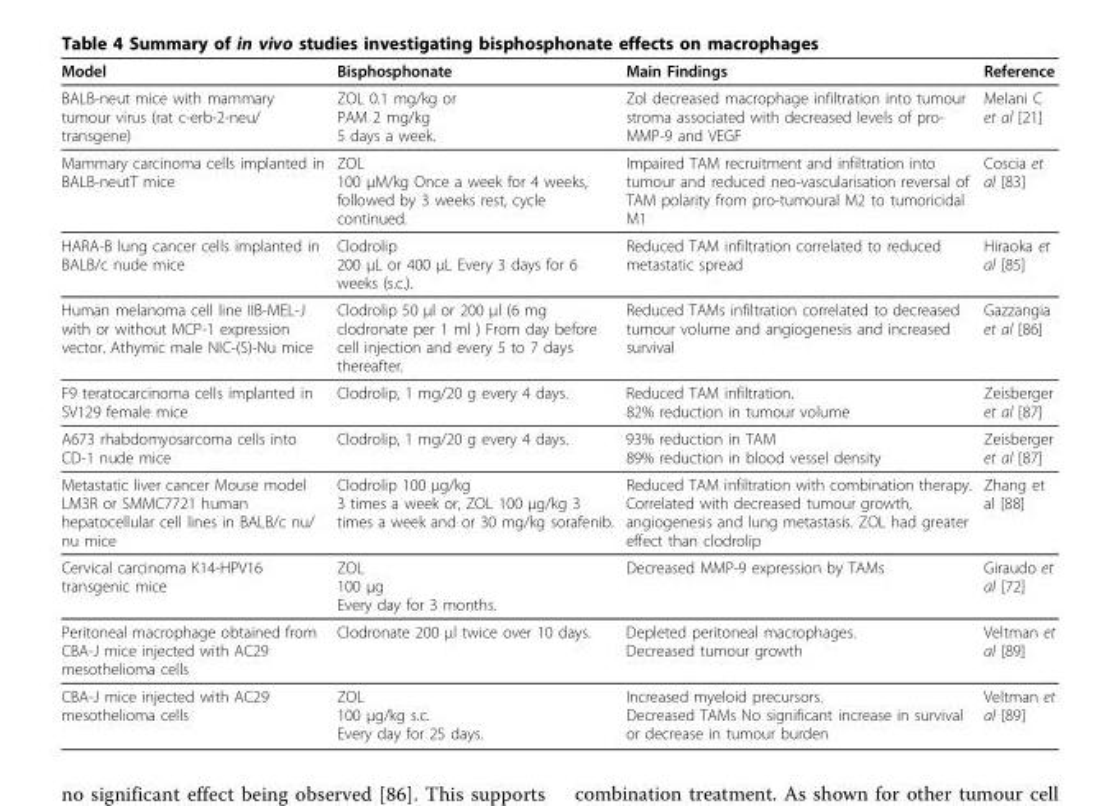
<table><thead><tr><td>Model</td><td>Bisphosphonate</td><td>Main Findings</td><td>Reference</td></tr></thead><tbody><tr><td>BALB-neut mice with mammary tumour virus (rat c-erb-2-neu/ transgene)</td><td>ZOL 0.1 mg/kg or PAM 2 mg/kg 5 days a week.</td><td>Zol decreased macrophage infiltration into tumour stroma associated with decreased levels of pro- MMP-9 and VEGF</td><td>Melani C et al [21]</td></tr><tr><td>Mammary carcinoma cells implanted in BALB-neutT mice</td><td>ZOL 100 μM/kg Once a week for 4 weeks, followed by 3 weeks rest, cycle continued.</td><td>Impaired TAM recruitment and infiltration into tumour and reduced neo-vascularisation reversal of TAM polarity from pro-tumoural M2 to tumoricidal M1</td><td>Coscia et al [83]</td></tr><tr><td>HARA-B lung cancer cells implanted in BALB/c nude mice</td><td>Clodrolip 200 μL or 400 μL Every 3 days for 6 weeks (s.c.).</td><td>Reduced TAM infiltration correlated to reduced metastatic spread</td><td>Hiraoka et al [85]</td></tr><tr><td>Human melanoma cell line IIB-MEL-J with or without MCP-1 expression vector. Athymic male NIC-(S)-Nu mice</td><td>Clodrolip 50 μl or 200 μl (6 mg clodronate per 1 ml ) From day before cell injection and every 5 to 7 days thereafter.</td><td>Reduced TAMs infiltration correlated to decreased tumour volume and angiogenesis and increased survival</td><td>Gazzangia et al [86]</td></tr><tr><td>F9 teratocarcinoma cells implanted in SV129 female mice</td><td>Clodrolip, 1 mg/20 g every 4 days.</td><td>Reduced TAM infiltration. 82% reduction in tumour volume</td><td>Zeisberger et al [87]</td></tr><tr><td>A673 rhabdomyosarcoma cells into CD-1 nude mice</td><td>Clodrolip, 1 mg/20 g every 4 days.</td><td>93% reduction in TAM 89% reduction in blood vessel density</td><td>Zeisberger et al [87]</td></tr><tr><td>Metastatic liver cancer Mouse model LM3R or SMMC7721 human hepatocellular cell lines in BALB/c nu/ nu mice</td><td>Clodrolip 100 μg/kg 3 times a week or, ZOL 100 μg/kg 3 times a week and or 30 mg/kg sorafenib.</td><td>Reduced TAM infiltration with combination therapy. Correlated with decreased tumour growth, angiogenesis and lung metastasis. ZOL had greater effect than clodrolip</td><td>Zhang et al [88]</td></tr><tr><td>Cervical carcinoma K14-HPV16 transgenic mice</td><td>ZOL 100 μg Every day for 3 months.</td><td>Decreased MMP-9 expression by TAMs</td><td>Giraudo et al [72]</td></tr><tr><td>Peritoneal macrophage obtained from CBA-J mice injected with AC29 mesothelioma cells</td><td>Clodronate 200 μl twice over 10 days.</td><td>Depleted peritoneal macrophages. Decreased tumour growth</td><td>Veltman et al [89]</td></tr><tr><td>CBA-J mice injected with AC29 mesothelioma cells</td><td>ZOL 100 μg/kg s.c. Every day for 25 days.</td><td>Increased myeloid precursors. Decreased TAMs No significant increase in survival or decrease in tumour burden</td><td>Veltman et al [89]</td></tr></tbody></table>